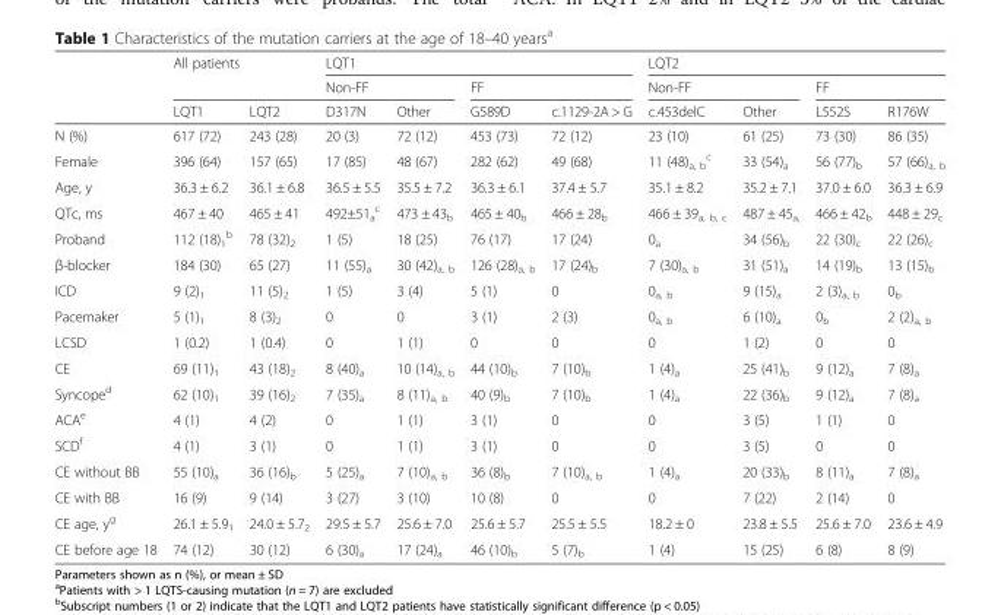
<table><thead><tr><td rowspan="3"></td><td rowspan="2" colspan="2">All patients</td><td colspan="4">LQT1</td><td colspan="4">LQT2</td></tr><tr><td colspan="2">Non-FF</td><td colspan="2">FF</td><td colspan="2">Non-FF</td><td colspan="2">FF</td></tr><tr><td>LQT1</td><td>LQT2</td><td>D317N</td><td>Other</td><td>G589D</td><td>c.1129-2A &gt; G</td><td>c.453delC</td><td>Other</td><td>L552S</td><td>R176W</td></tr></thead><tbody><tr><td>N (%)</td><td>617 (72)</td><td>243 (28)</td><td>20 (3)</td><td>72 (12)</td><td>453 (73)</td><td>72 (12)</td><td>23 (10)</td><td>61 (25)</td><td>73 (30)</td><td>86 (35)</td></tr><tr><td>Female</td><td>396 (64)</td><td>157 (65)</td><td>17 (85)</td><td>48 (67)</td><td>282 (62)</td><td>49 (68)</td><td>11 (48)<sub>a, b</sub> <sup>c</sup></td><td>33 (54)<sub>a</sub></td><td>56 (77)<sub>b</sub></td><td>57 (66)<sub>a, b</sub></td></tr><tr><td>Age, y</td><td>36.3 ± 6.2</td><td>36.1 ± 6.8</td><td>36.5 ± 5.5</td><td>35.5 ± 7.2</td><td>36.3 ± 6.1</td><td>37.4 ± 5.7</td><td>35.1 ± 8.2</td><td>35.2 ± 7.1</td><td>37.0 ± 6.0</td><td>36.3 ± 6.9</td></tr><tr><td>QTc, ms</td><td>467 ± 40</td><td>465 ± 41</td><td>492±51<sub>a</sub> <sup>c</sup></td><td>473 ± 43<sub>b</sub></td><td>465 ± 40<sub>b</sub></td><td>466 ± 28<sub>b</sub></td><td>466 ± 39<sub>a, b, c</sub></td><td>487 ± 45<sub>a,</sub></td><td>466 ± 42<sub>b</sub></td><td>448 ± 29<sub>c</sub></td></tr><tr><td>Proband</td><td>112 (18)<sub>1</sub> <sup>b</sup></td><td>78 (32)<sub>2</sub></td><td>1 (5)</td><td>18 (25)</td><td>76 (17)</td><td>17 (24)</td><td>0<sub>a</sub></td><td>34 (56)<sub>b</sub></td><td>22 (30)<sub>c</sub></td><td>22 (26)<sub>c</sub></td></tr><tr><td>β-blocker</td><td>184 (30)</td><td>65 (27)</td><td>11 (55)<sub>a</sub></td><td>30 (42)<sub>a, b</sub></td><td>126 (28)<sub>a, b</sub></td><td>17 (24)<sub>b</sub></td><td>7 (30)<sub>a, b</sub></td><td>31 (51)<sub>a</sub></td><td>14 (19)<sub>b</sub></td><td>13 (15)<sub>b</sub></td></tr><tr><td>ICD</td><td>9 (2)<sub>1</sub></td><td>11 (5)<sub>2</sub></td><td>1 (5)</td><td>3 (4)</td><td>5 (1)</td><td>0</td><td>0<sub>a, b</sub></td><td>9 (15)<sub>a</sub></td><td>2 (3)<sub>a, b</sub></td><td>0<sub>b</sub></td></tr><tr><td>Pacemaker</td><td>5 (1)<sub>1</sub></td><td>8 (3)<sub>2</sub></td><td>0</td><td>0</td><td>3 (1)</td><td>2 (3)</td><td>0<sub>a, b</sub></td><td>6 (10)<sub>a</sub></td><td>0<sub>b</sub></td><td>2 (2)<sub>a, b</sub></td></tr><tr><td>LCSD</td><td>1 (0.2)</td><td>1 (0.4)</td><td>0</td><td>1 (1)</td><td>0</td><td>0</td><td>0</td><td>1 (2)</td><td>0</td><td>0</td></tr><tr><td>CE</td><td>69 (11)<sub>1</sub></td><td>43 (18)<sub>2</sub></td><td>8 (40)<sub>a</sub></td><td>10 (14)<sub>a, b</sub></td><td>44 (10)<sub>b</sub></td><td>7 (10)<sub>b</sub></td><td>1 (4)<sub>a</sub></td><td>25 (41)<sub>b</sub></td><td>9 (12)<sub>a</sub></td><td>7 (8)<sub>a</sub></td></tr><tr><td>Syncope<sup>d</sup></td><td>62 (10)<sub>1</sub></td><td>39 (16)<sub>2</sub></td><td>7 (35)<sub>a</sub></td><td>8 (11)<sub>a, b</sub></td><td>40 (9)<sub>b</sub></td><td>7 (10)<sub>b</sub></td><td>1 (4)<sub>a</sub></td><td>22 (36)<sub>b</sub></td><td>9 (12)<sub>a</sub></td><td>7 (8)<sub>a</sub></td></tr><tr><td>ACA<sup>e</sup></td><td>4 (1)</td><td>4 (2)</td><td>0</td><td>1 (1)</td><td>3 (1)</td><td>0</td><td>0</td><td>3 (5)</td><td>1 (1)</td><td>0</td></tr><tr><td>SCD<sup>f</sup></td><td>4 (1)</td><td>3 (1)</td><td>0</td><td>1 (1)</td><td>3 (1)</td><td>0</td><td>0</td><td>3 (5)</td><td>0</td><td>0</td></tr><tr><td>CE without BB</td><td>55 (10)<sub>a</sub></td><td>36 (16)<sub>b</sub></td><td>5 (25)<sub>a</sub></td><td>7 (10)<sub>a, b</sub></td><td>36 (8)<sub>b</sub></td><td>7 (10)<sub>a, b</sub></td><td>1 (4)<sub>a</sub></td><td>20 (33)<sub>b</sub></td><td>8 (11)<sub>a</sub></td><td>7 (8)<sub>a</sub></td></tr><tr><td>CE with BB</td><td>16 (9)</td><td>9 (14)</td><td>3 (27)</td><td>3 (10)</td><td>10 (8)</td><td>0</td><td>0</td><td>7 (22)</td><td>2 (14)</td><td>0</td></tr><tr><td>CE age, y<sup>g</sup></td><td>26.1 ± 5.9<sub>1</sub></td><td>24.0 ± 5.7<sub>2</sub></td><td>29.5 ± 5.7</td><td>25.6 ± 7.0</td><td>25.6 ± 5.7</td><td>25.5 ± 5.5</td><td>18.2 ± 0</td><td>23.8 ± 5.5</td><td>25.6 ± 7.0</td><td>23.6 ± 4.9</td></tr><tr><td>CE before age 18</td><td>74 (12)</td><td>30 (12)</td><td>6 (30)<sub>a</sub></td><td>17 (24)<sub>a</sub></td><td>46 (10)<sub>b</sub></td><td>5 (7)<sub>b</sub></td><td>1 (4)</td><td>15 (25)</td><td>6 (8)</td><td>8 (9)</td></tr></tbody></table>